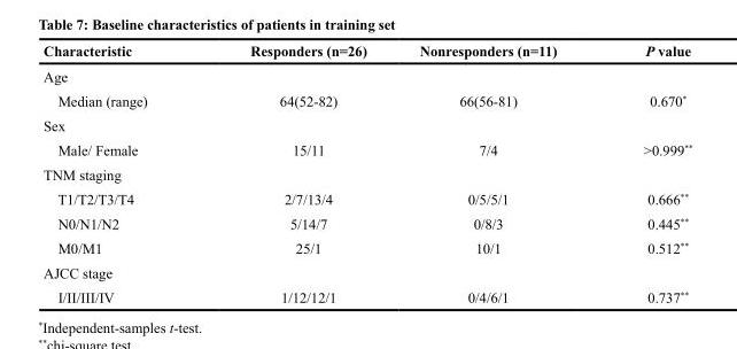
<table><thead><tr><td>Characteristic</td><td>Responders (n=26)</td><td>Nonresponders (n=11)</td><td>P value</td></tr></thead><tbody><tr><td colspan="4">Age</td></tr><tr><td>Median (range)</td><td>64(52-82)</td><td>66(56-81)</td><td>0.670*</td></tr><tr><td colspan="4">Sex</td></tr><tr><td>Male/ Female</td><td>15/11</td><td>7/4</td><td>&gt;0.999**</td></tr><tr><td colspan="4">TNM staging</td></tr><tr><td>T1/T2/T3/T4</td><td>2/7/13/4</td><td>0/5/5/1</td><td>0.666**</td></tr><tr><td>N0/N1/N2</td><td>5/14/7</td><td>0/8/3</td><td>0.445**</td></tr><tr><td>M0/M1</td><td>25/1</td><td>10/1</td><td>0.512**</td></tr><tr><td colspan="4">AJCC stage</td></tr><tr><td>I/II/III/IV</td><td>1/12/12/1</td><td>0/4/6/1</td><td>0.737**</td></tr></tbody></table>